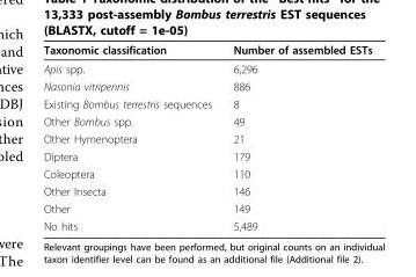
<table><thead><tr><td>Taxonomic classification</td><td>Number of assembled ESTs</td></tr></thead><tbody><tr><td>Apis spp.</td><td>6,296</td></tr><tr><td>Nasonia vitripennis</td><td>886</td></tr><tr><td>Existing Bombus terrestris sequences</td><td>8</td></tr><tr><td>Other Bombus spp.</td><td>49</td></tr><tr><td>Other Hymenoptera</td><td>21</td></tr><tr><td>Diptera</td><td>179</td></tr><tr><td>Coleoptera</td><td>110</td></tr><tr><td>Other Insecta</td><td>146</td></tr><tr><td>Other</td><td>149</td></tr><tr><td>No hits</td><td>5,489</td></tr></tbody></table>